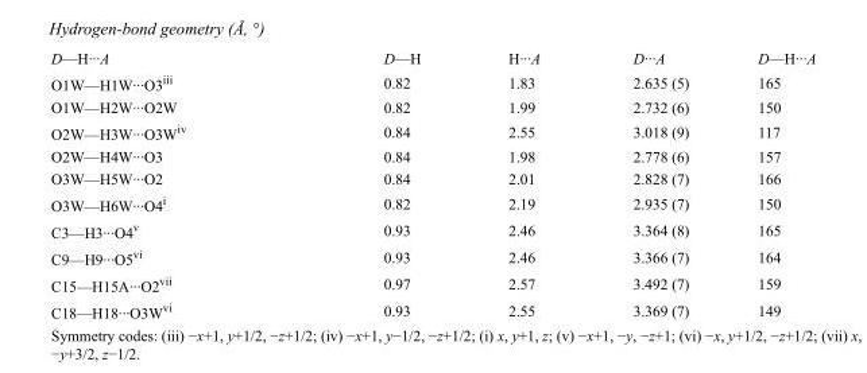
<table><tbody><tr><td>D—H···A</td><td>D—H</td><td>H···A</td><td>D···A</td><td>D—H···A</td></tr><tr><td>O1W—H1W···O3<sup>iii</sup></td><td>0.82</td><td>1.83</td><td>2.635 (5)</td><td>165</td></tr><tr><td>O1W—H2W···O2W</td><td>0.82</td><td>1.99</td><td>2.732 (6)</td><td>150</td></tr><tr><td>O2W—H3W···O3W<sup>iv</sup></td><td>0.84</td><td>2.55</td><td>3.018 (9)</td><td>117</td></tr><tr><td>O2W—H4W···O3</td><td>0.84</td><td>1.98</td><td>2.778 (6)</td><td>157</td></tr><tr><td>O3W—H5W···O2</td><td>0.84</td><td>2.01</td><td>2.828 (7)</td><td>166</td></tr><tr><td>O3W—H6W···O4<sup>i</sup></td><td>0.82</td><td>2.19</td><td>2.935 (7)</td><td>150</td></tr><tr><td>C3—H3···O4<sup>v</sup></td><td>0.93</td><td>2.46</td><td>3.364 (8)</td><td>165</td></tr><tr><td>C9—H9···O5<sup>vi</sup></td><td>0.93</td><td>2.46</td><td>3.366 (7)</td><td>164</td></tr><tr><td>C15—H15A···O2<sup>vii</sup></td><td>0.97</td><td>2.57</td><td>3.492 (7)</td><td>159</td></tr><tr><td>C18—H18···O3W<sup>vi</sup></td><td>0.93</td><td>2.55</td><td>3.369 (7)</td><td>149</td></tr></tbody></table>